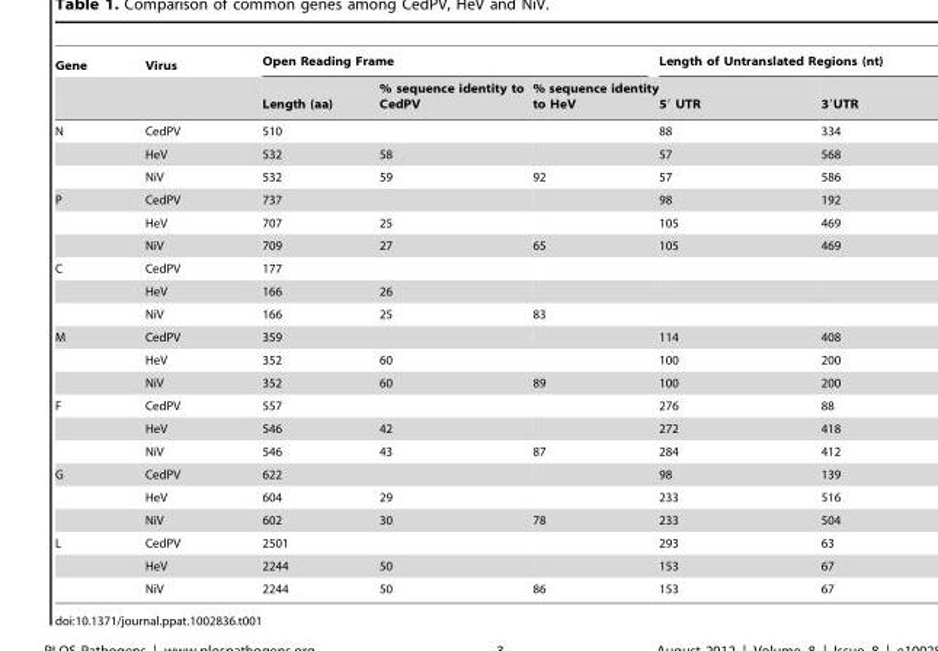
<table><thead><tr><td rowspan="2">Gene</td><td rowspan="2">Virus</td><td colspan="3">Open Reading Frame</td><td colspan="2">Length of Untranslated Regions (nt)</td></tr><tr><td>Length (aa)</td><td>% sequence identity to CedPV</td><td>% sequence identity to HeV</td><td>5′ UTR</td><td>3′UTR</td></tr></thead><tbody><tr><td rowspan="3">N</td><td>CedPV</td><td>510</td><td></td><td></td><td>88</td><td>334</td></tr><tr><td>HeV</td><td>532</td><td>58</td><td></td><td>57</td><td>568</td></tr><tr><td>NiV</td><td>532</td><td>59</td><td>92</td><td>57</td><td>586</td></tr><tr><td rowspan="3">P</td><td>CedPV</td><td>737</td><td></td><td></td><td>98</td><td>192</td></tr><tr><td>HeV</td><td>707</td><td>25</td><td></td><td>105</td><td>469</td></tr><tr><td>NiV</td><td>709</td><td>27</td><td>65</td><td>105</td><td>469</td></tr><tr><td rowspan="3">C</td><td>CedPV</td><td>177</td><td></td><td></td><td></td><td></td></tr><tr><td>HeV</td><td>166</td><td>26</td><td></td><td></td><td></td></tr><tr><td>NiV</td><td>166</td><td>25</td><td>83</td><td></td><td></td></tr><tr><td rowspan="3">M</td><td>CedPV</td><td>359</td><td></td><td></td><td>114</td><td>408</td></tr><tr><td>HeV</td><td>352</td><td>60</td><td></td><td>100</td><td>200</td></tr><tr><td>NiV</td><td>352</td><td>60</td><td>89</td><td>100</td><td>200</td></tr><tr><td rowspan="3">F</td><td>CedPV</td><td>557</td><td></td><td></td><td>276</td><td>88</td></tr><tr><td>HeV</td><td>546</td><td>42</td><td></td><td>272</td><td>418</td></tr><tr><td>NiV</td><td>546</td><td>43</td><td>87</td><td>284</td><td>412</td></tr><tr><td rowspan="3">G</td><td>CedPV</td><td>622</td><td></td><td></td><td>98</td><td>139</td></tr><tr><td>HeV</td><td>604</td><td>29</td><td></td><td>233</td><td>516</td></tr><tr><td>NiV</td><td>602</td><td>30</td><td>78</td><td>233</td><td>504</td></tr><tr><td rowspan="3">L</td><td>CedPV</td><td>2501</td><td></td><td></td><td>293</td><td>63</td></tr><tr><td>HeV</td><td>2244</td><td>50</td><td></td><td>153</td><td>67</td></tr><tr><td>NiV</td><td>2244</td><td>50</td><td>86</td><td>153</td><td>67</td></tr></tbody></table>